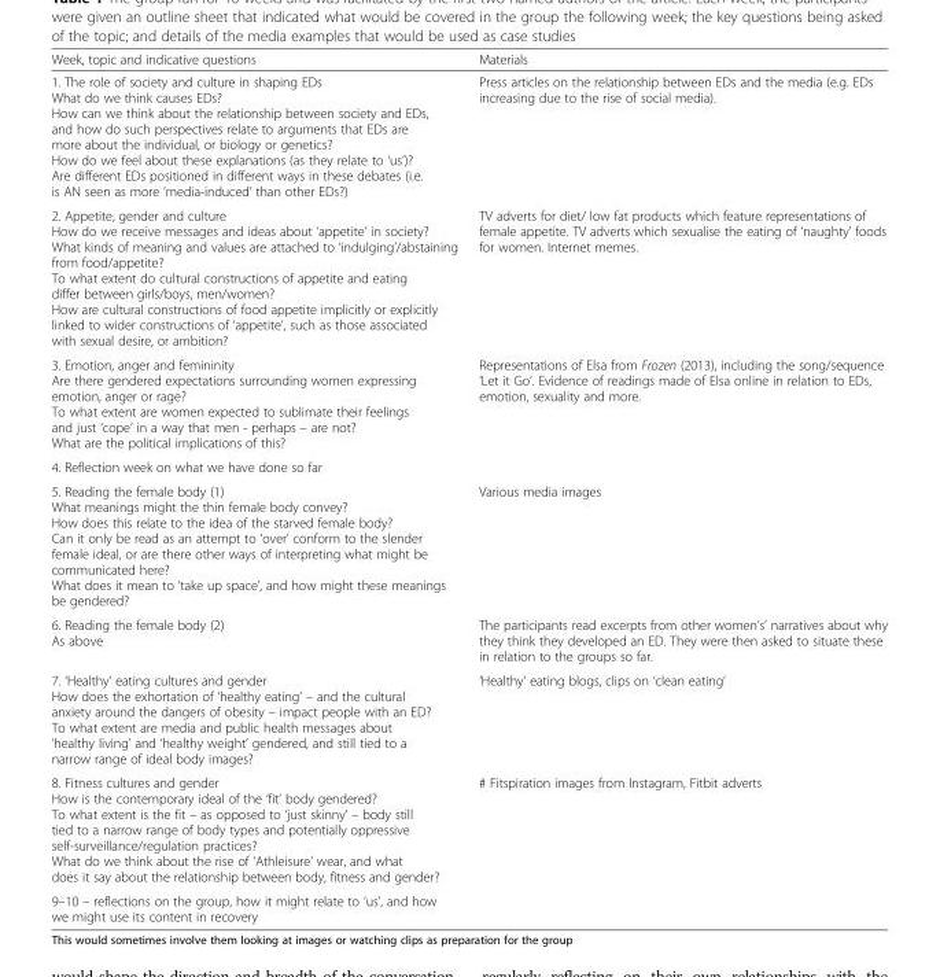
<table><thead><tr><td>Week, topic and indicative questions</td><td>Materials</td></tr></thead><tbody><tr><td>1. The role of society and culture in shaping EDs What do we think causes EDs? How can we think about the relationship between society and EDs, and how do such perspectives relate to arguments that EDs are more about the individual, or biology or genetics? How do we feel about these explanations (as they relate to ‘us’)? Are different EDs positioned in different ways in these debates (i.e. is AN seen as more ‘media-induced’ than other EDs?)</td><td>Press articles on the relationship between EDs and the media (e.g. EDs increasing due to the rise of social media).</td></tr><tr><td>2. Appetite, gender and culture How do we receive messages and ideas about ‘appetite’ in society? What kinds of meaning and values are attached to ‘indulging’/abstaining from food/appetite? To what extent do cultural constructions of appetite and eating differ between girls/boys, men/women? How are cultural constructions of food appetite implicitly or explicitly linked to wider constructions of ‘appetite’, such as those associated with sexual desire, or ambition?</td><td>TV adverts for diet/ low fat products which feature representations of female appetite. TV adverts which sexualise the eating of ‘naughty’ foods for women. Internet memes.</td></tr><tr><td>3. Emotion, anger and femininity Are there gendered expectations surrounding women expressing emotion, anger or rage? To what extent are women expected to sublimate their feelings and just ‘cope’ in a way that men - perhaps – are not? What are the political implications of this?</td><td>Representations of Elsa from Frozen (2013), including the song/sequence ‘Let it Go’. Evidence of readings made of Elsa online in relation to EDs, emotion, sexuality and more.</td></tr><tr><td colspan="2">4. Reflection week on what we have done so far</td></tr><tr><td>5. Reading the female body (1) What meanings might the thin female body convey? How does this relate to the idea of the starved female body? Can it only be read as an attempt to ‘over’ conform to the slender female ideal, or are there other ways of interpreting what might be communicated here? What does it mean to ‘take up space’, and how might these meanings be gendered?</td><td>Various media images</td></tr><tr><td>6. Reading the female body (2) As above</td><td>The participants read excerpts from other women’s’ narratives about why they think they developed an ED. They were then asked to situate these in relation to the groups so far.</td></tr><tr><td>7. ‘Healthy’ eating cultures and gender How does the exhortation of ‘healthy eating’ – and the cultural anxiety around the dangers of obesity – impact people with an ED? To what extent are media and public health messages about ‘healthy living’ and ‘healthy weight’ gendered, and still tied to a narrow range of ideal body images?</td><td>‘Healthy’ eating blogs, clips on ‘clean eating’</td></tr><tr><td>8. Fitness cultures and gender How is the contemporary ideal of the ‘fit’ body gendered? To what extent is the fit – as opposed to ‘just skinny’ – body still tied to a narrow range of body types and potentially oppressive self-surveillance/regulation practices? What do we think about the rise of ‘Athleisure’ wear, and what does it say about the relationship between body, fitness and gender?</td><td># Fitspiration images from Instagram, Fitbit adverts</td></tr><tr><td>9–10 – reflections on the group, how it might relate to ‘us’, and how we might use its content in recovery</td><td></td></tr></tbody></table>